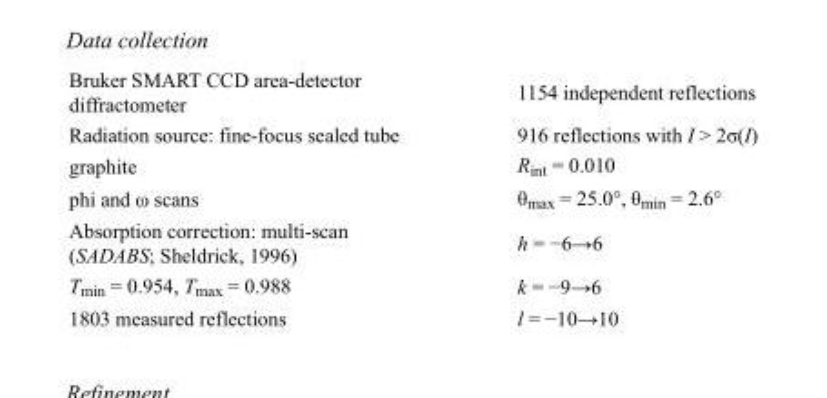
<table><tbody><tr><td>Bruker SMART CCD area-detector diffractometer</td><td>1154 independent reflections</td></tr><tr><td>Radiation source: fine-focus sealed tube</td><td>916 reflections with I &gt; 2σ(I)</td></tr><tr><td>graphite</td><td>R<sub>int</sub> = 0.010</td></tr><tr><td>phi and ω scans</td><td>θ<sub>max</sub> = 25.0°, θ<sub>min</sub> = 2.6°</td></tr><tr><td>Absorption correction: multi-scan (SADABS; Sheldrick, 1996)</td><td>h = −6→6</td></tr><tr><td>T<sub>min</sub> = 0.954, T<sub>max</sub> = 0.988</td><td>k = −9→6</td></tr><tr><td>1803 measured reflections</td><td>l = −10→10</td></tr></tbody></table>